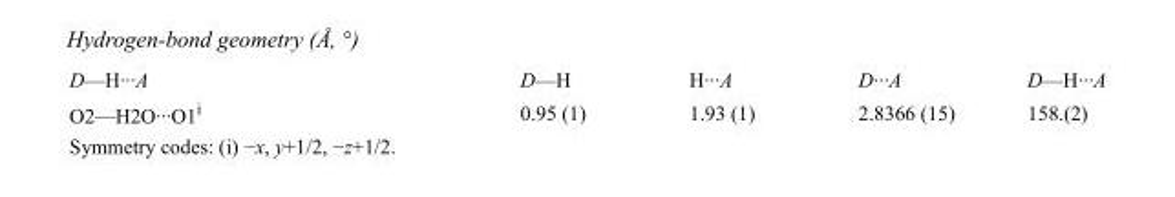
<table><tbody><tr><td>D—H···A</td><td>D—H</td><td>H···A</td><td>D···A</td><td>D—H···A</td></tr><tr><td>O2—H2O···O1<sup>i</sup></td><td>0.95 (1)</td><td>1.93 (1)</td><td>2.8366 (15)</td><td>158.(2)</td></tr></tbody></table>